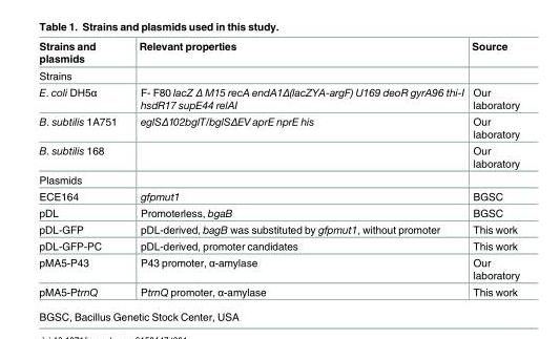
<table><thead><tr><td>Strains and plasmids</td><td>Relevant properties</td><td>Source</td></tr></thead><tbody><tr><td colspan="3">Strains</td></tr><tr><td>E. coli DH5α</td><td>F- F80 lacZ Δ M15 recA endA1Δ(lacZYA-argF) U169 deoR gyrA96 thi-I hsdR17 supE44 relAI</td><td>Our laboratory</td></tr><tr><td>B. subtilis 1A751</td><td>eglSΔ102bglT/bglSΔEV aprE nprE his</td><td>Our laboratory</td></tr><tr><td>B. subtilis 168</td><td></td><td>Our laboratory</td></tr><tr><td colspan="3">Plasmids</td></tr><tr><td>ECE164</td><td>gfpmut1</td><td>BGSC</td></tr><tr><td>pDL</td><td>Promoterless, bgaB</td><td>BGSC</td></tr><tr><td>pDL-GFP</td><td>pDL-derived, bagB was substituted by gfpmut1, without promoter</td><td>This work</td></tr><tr><td>pDL-GFP-PC</td><td>pDL-derived, promoter candidates</td><td>This work</td></tr><tr><td>pMA5-P43</td><td>P43 promoter, α-amylase</td><td>Our laboratory</td></tr><tr><td>pMA5-PtrnQ</td><td>PtrnQ promoter, α-amylase</td><td>This work</td></tr></tbody></table>